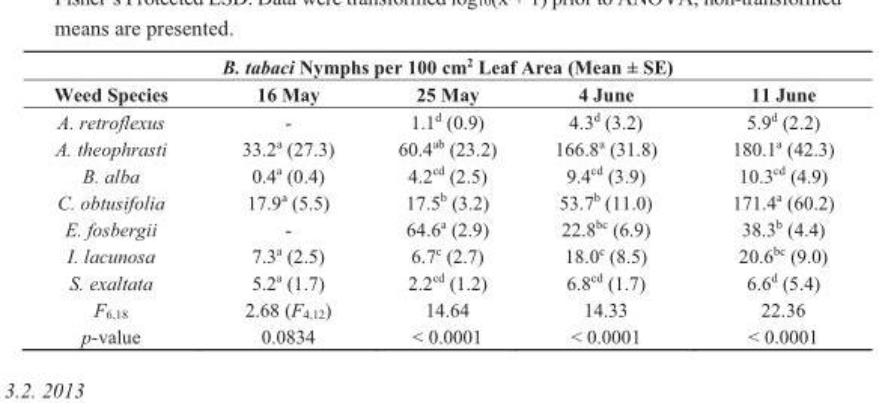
<table><thead><tr><td colspan="5">B. tabaci Nymphs per 100 cm<sup>2</sup> Leaf Area (Mean ± SE)</td></tr><tr><td>Weed Species</td><td>16 May</td><td>25 May</td><td>4 June</td><td>11 June</td></tr></thead><tbody><tr><td>A. retroflexus</td><td>-</td><td>1.1<sup>d</sup> (0.9)</td><td>4.3<sup>d</sup> (3.2)</td><td>5.9<sup>d</sup> (2.2)</td></tr><tr><td>A. theophrasti</td><td>33.2<sup>a</sup> (27.3)</td><td>60.4<sup>ab</sup> (23.2)</td><td>166.8<sup>a</sup> (31.8)</td><td>180.1<sup>a</sup> (42.3)</td></tr><tr><td>B. alba</td><td>0.4<sup>a</sup> (0.4)</td><td>4.2<sup>cd</sup> (2.5)</td><td>9.4<sup>cd</sup> (3.9)</td><td>10.3<sup>cd</sup> (4.9)</td></tr><tr><td>C. obtusifolia</td><td>17.9<sup>a</sup> (5.5)</td><td>17.5<sup>b</sup> (3.2)</td><td>53.7<sup>b</sup> (11.0)</td><td>171.4<sup>a</sup> (60.2)</td></tr><tr><td>E. fosbergii</td><td>-</td><td>64.6<sup>a</sup> (2.9)</td><td>22.8<sup>bc</sup> (6.9)</td><td>38.3<sup>b</sup> (4.4)</td></tr><tr><td>I. lacunosa</td><td>7.3<sup>a</sup> (2.5)</td><td>6.7<sup>c</sup> (2.7)</td><td>18.0<sup>c</sup> (8.5)</td><td>20.6<sup>bc</sup> (9.0)</td></tr><tr><td>S. exaltata</td><td>5.2<sup>a</sup> (1.7)</td><td>2.2<sup>cd</sup> (1.2)</td><td>6.8<sup>cd</sup> (1.7)</td><td>6.6<sup>d</sup> (5.4)</td></tr><tr><td>F<sub>6,18</sub></td><td>2.68 (F<sub>4,12</sub>)</td><td>14.64</td><td>14.33</td><td>22.36</td></tr><tr><td>p-value</td><td>0.0834</td><td>&lt; 0.0001</td><td>&lt; 0.0001</td><td>&lt; 0.0001</td></tr></tbody></table>